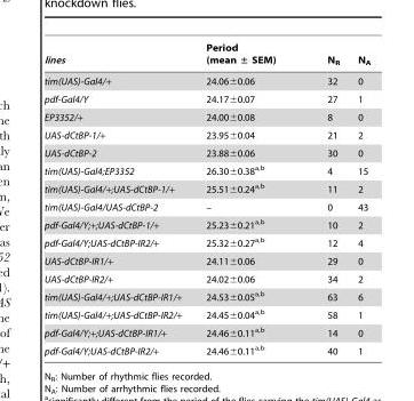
<table><thead><tr><td>lines</td><td>Period (mean ± SEM)</td><td>N<sub>R</sub></td><td>N<sub>A</sub></td></tr></thead><tbody><tr><td>tim(UAS)-Gal4/+</td><td>24.06±0.06</td><td>32</td><td>0</td></tr><tr><td>pdf-Gal4/Y</td><td>24.17±0.07</td><td>27</td><td>1</td></tr><tr><td>EP3352/+</td><td>24.00±0.08</td><td>8</td><td>0</td></tr><tr><td>UAS-dCtBP-1/+</td><td>23.95±0.04</td><td>21</td><td>2</td></tr><tr><td>UAS-dCtBP-2</td><td>23.88±0.06</td><td>30</td><td>0</td></tr><tr><td>tim(UAS)-Gal4;EP3352</td><td>26.30±0.38a,b</td><td>4</td><td>15</td></tr><tr><td>tim(UAS)-Gal4/+;UAS-dCtBP-1/+</td><td>25.51±0.24a,b</td><td>11</td><td>2</td></tr><tr><td>tim(UAS)-Gal4/UAS-dCtBP-2</td><td>–</td><td>0</td><td>43</td></tr><tr><td>pdf-Gal4/Y;+;UAS-dCtBP-1/+</td><td>25.23±0.21a,b</td><td>10</td><td>2</td></tr><tr><td>pdf-Gal4/Y;UAS-dCtBP-IR2/+</td><td>25.32±0.27a,b</td><td>12</td><td>4</td></tr><tr><td>UAS-dCtBP-IR1/+</td><td>24.11±0.06</td><td>29</td><td>0</td></tr><tr><td>UAS-dCtBP-IR2/+</td><td>24.02±0.06</td><td>34</td><td>2</td></tr><tr><td>tim(UAS)-Gal4/+;UAS-dCtBP-IR1/+</td><td>24.53±0.05a,b</td><td>63</td><td>6</td></tr><tr><td>tim(UAS)-Gal4/+;UAS-dCtBP-IR2/+</td><td>24.45±0.04a,b</td><td>58</td><td>1</td></tr><tr><td>pdf-Gal4/Y;+;UAS-dCtBP-IR1/+</td><td>24.46±0.11a,b</td><td>14</td><td>0</td></tr><tr><td>pdf-Gal4/Y;UAS-dCtBP-IR2/+</td><td>24.46±0.11a,b</td><td>40</td><td>1</td></tr></tbody></table>